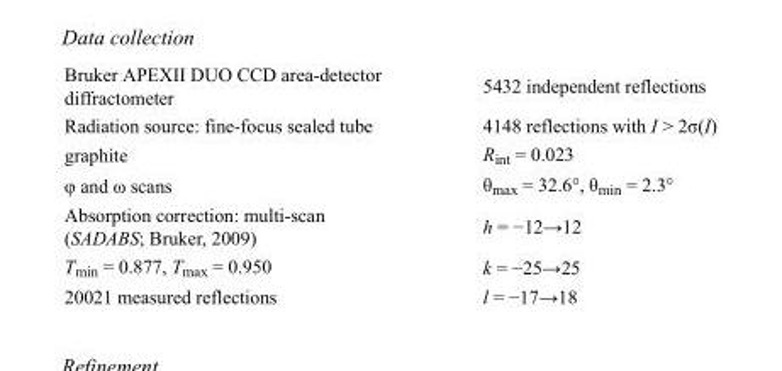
<table><tbody><tr><td>Bruker APEXII DUO CCD area-detector diffractometer</td><td>5432 independent reflections</td></tr><tr><td>Radiation source: fine-focus sealed tube</td><td>4148 reflections with I &gt; 2σ(I)</td></tr><tr><td>graphite</td><td>R<sub>int</sub> = 0.023</td></tr><tr><td>φ and ω scans</td><td>θ<sub>max</sub> = 32.6°, θ<sub>min</sub> = 2.3°</td></tr><tr><td>Absorption correction: multi-scan (SADABS; Bruker, 2009)</td><td>h = −12→12</td></tr><tr><td>T<sub>min</sub> = 0.877, T<sub>max</sub> = 0.950</td><td>k = −25→25</td></tr><tr><td>20021 measured reflections</td><td>l = −17→18</td></tr></tbody></table>